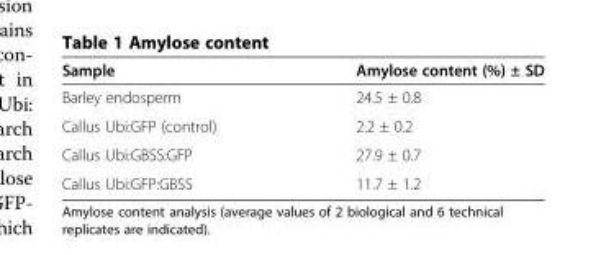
<table><thead><tr><td>Sample</td><td>Amylose content (%) ± SD</td></tr></thead><tbody><tr><td>Barley endosperm</td><td>24.5 ± 0.8</td></tr><tr><td>Callus Ubi:GFP (control)</td><td>2.2 ± 0.2</td></tr><tr><td>Callus Ubi:GBSS:GFP</td><td>27.9 ± 0.7</td></tr><tr><td>Callus Ubi:GFP:GBSS</td><td>11.7 ± 1.2</td></tr></tbody></table>